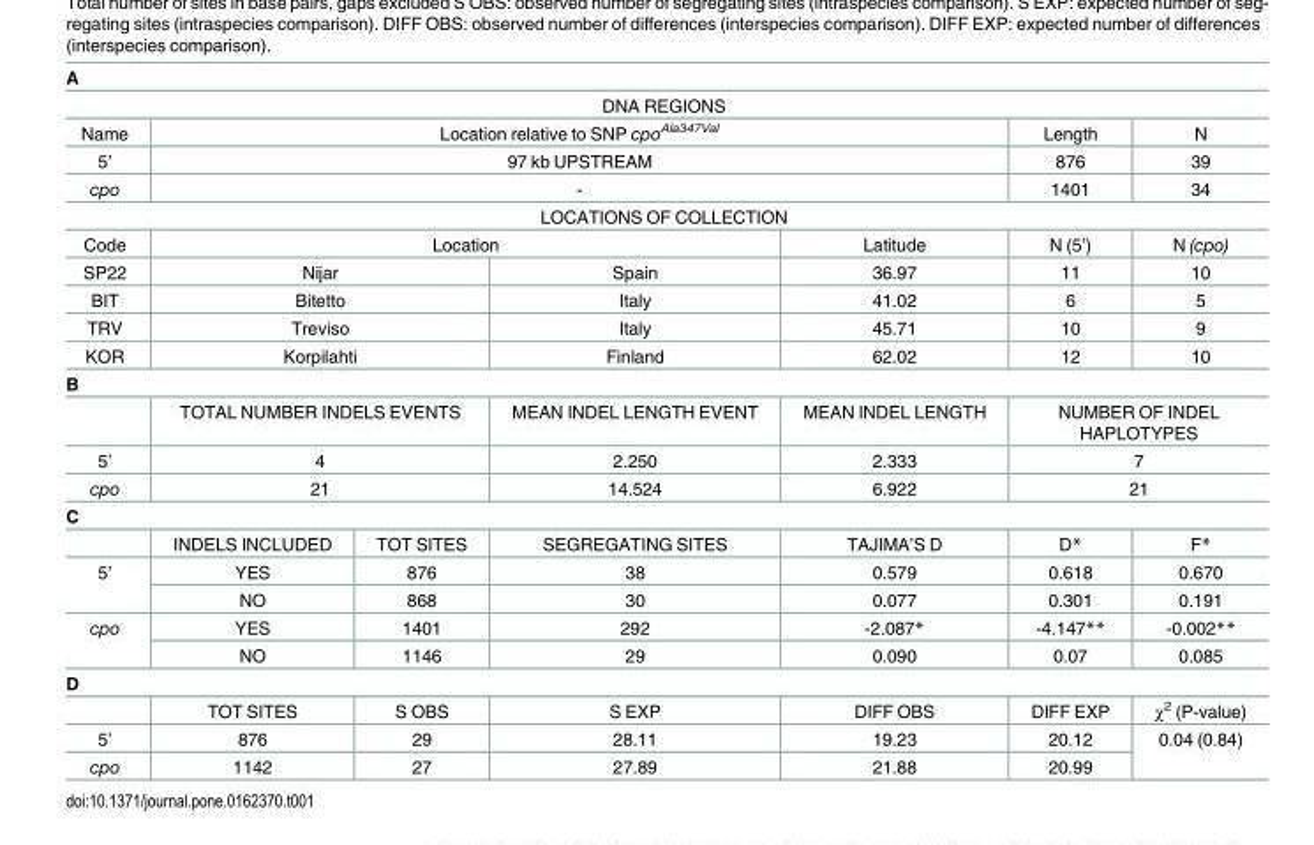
<table><tbody><tr><td colspan="7">A</td></tr><tr><td colspan="7">DNA REGIONS</td></tr><tr><td>Name</td><td colspan="4">Location relative to SNP cpo<sup>Ala347Val</sup></td><td>Length</td><td>N</td></tr><tr><td>5’</td><td colspan="4">97 kb UPSTREAM</td><td>876</td><td>39</td></tr><tr><td>cpo</td><td colspan="4">-</td><td>1401</td><td>34</td></tr><tr><td colspan="7">LOCATIONS OF COLLECTION</td></tr><tr><td>Code</td><td colspan="3">Location</td><td>Latitude</td><td>N (5’)</td><td>N (cpo)</td></tr><tr><td>SP22</td><td colspan="2">Nijar</td><td>Spain</td><td>36.97</td><td>11</td><td>10</td></tr><tr><td>BIT</td><td colspan="2">Bitetto</td><td>Italy</td><td>41.02</td><td>6</td><td>5</td></tr><tr><td>TRV</td><td colspan="2">Treviso</td><td>Italy</td><td>45.71</td><td>10</td><td>9</td></tr><tr><td>KOR</td><td colspan="2">Korpilahti</td><td>Finland</td><td>62.02</td><td>12</td><td>10</td></tr><tr><td colspan="7">B</td></tr><tr><td></td><td colspan="2">TOTAL NUMBER INDELS EVENTS</td><td>MEAN INDEL LENGTH EVENT</td><td>MEAN INDEL LENGTH</td><td colspan="2">NUMBER OF INDEL HAPLOTYPES</td></tr><tr><td>5’</td><td colspan="2">4</td><td>2.250</td><td>2.333</td><td colspan="2">7</td></tr><tr><td>cpo</td><td colspan="2">21</td><td>14.524</td><td>6.922</td><td colspan="2">21</td></tr><tr><td colspan="7">C</td></tr><tr><td></td><td>INDELS INCLUDED</td><td>TOT SITES</td><td>SEGREGATING SITES</td><td>TAJIMA’S D</td><td>D*</td><td>F*</td></tr><tr><td rowspan="2">5’</td><td>YES</td><td>876</td><td>38</td><td>0.579</td><td>0.618</td><td>0.670</td></tr><tr><td>NO</td><td>868</td><td>30</td><td>0.077</td><td>0.301</td><td>0.191</td></tr><tr><td rowspan="2">cpo</td><td>YES</td><td>1401</td><td>292</td><td>-2.087*</td><td>-4.147**</td><td>-0.002**</td></tr><tr><td>NO</td><td>1146</td><td>29</td><td>0.090</td><td>0.07</td><td>0.085</td></tr><tr><td colspan="7">D</td></tr><tr><td></td><td>TOT SITES</td><td>S OBS</td><td>S EXP</td><td>DIFF OBS</td><td>DIFF EXP</td><td>χ<sup>2</sup> (P-value)</td></tr><tr><td>5’</td><td>876</td><td>29</td><td>28.11</td><td>19.23</td><td>20.12</td><td rowspan="2">0.04 (0.84)</td></tr><tr><td>cpo</td><td>1142</td><td>27</td><td>27.89</td><td>21.88</td><td>20.99</td></tr></tbody></table>